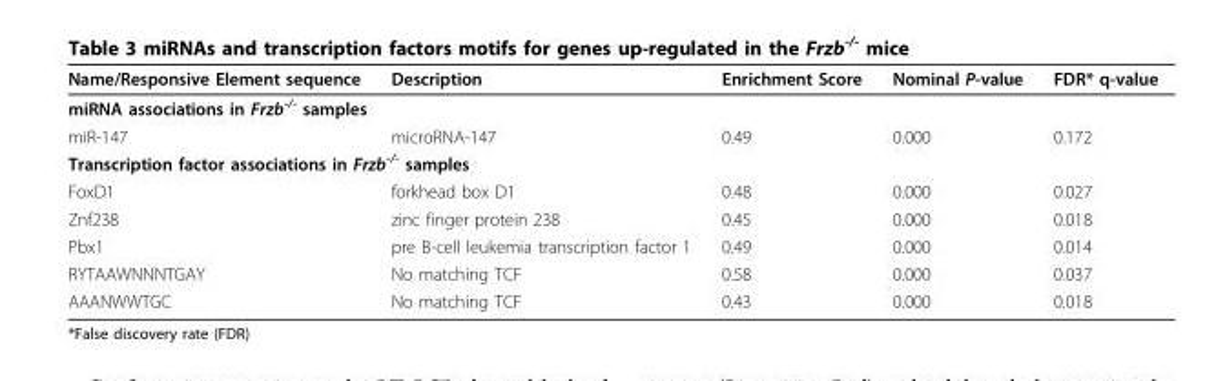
<table><thead><tr><td>Name/Responsive Element sequence</td><td>Description</td><td>Enrichment Score</td><td>Nominal P-value</td><td>FDR* q-value</td></tr></thead><tbody><tr><td colspan="5">miRNA associations in Frzb<sup>-/-</sup> samples</td></tr><tr><td>miR-147</td><td>microRNA-147</td><td>0.49</td><td>0.000</td><td>0.172</td></tr><tr><td colspan="5">Transcription factor associations in Frzb<sup>-/-</sup> samples</td></tr><tr><td>FoxD1</td><td>forkhead box D1</td><td>0.48</td><td>0.000</td><td>0.027</td></tr><tr><td>Znf238</td><td>zinc finger protein 238</td><td>0.45</td><td>0.000</td><td>0.018</td></tr><tr><td>Pbx1</td><td>pre B-cell leukemia transcription factor 1</td><td>0.49</td><td>0.000</td><td>0.014</td></tr><tr><td>RYTAAWNNNTGAY</td><td>No matching TCF</td><td>0.58</td><td>0.000</td><td>0.037</td></tr><tr><td>AAANWWTGC</td><td>No matching TCF</td><td>0.43</td><td>0.000</td><td>0.018</td></tr></tbody></table>